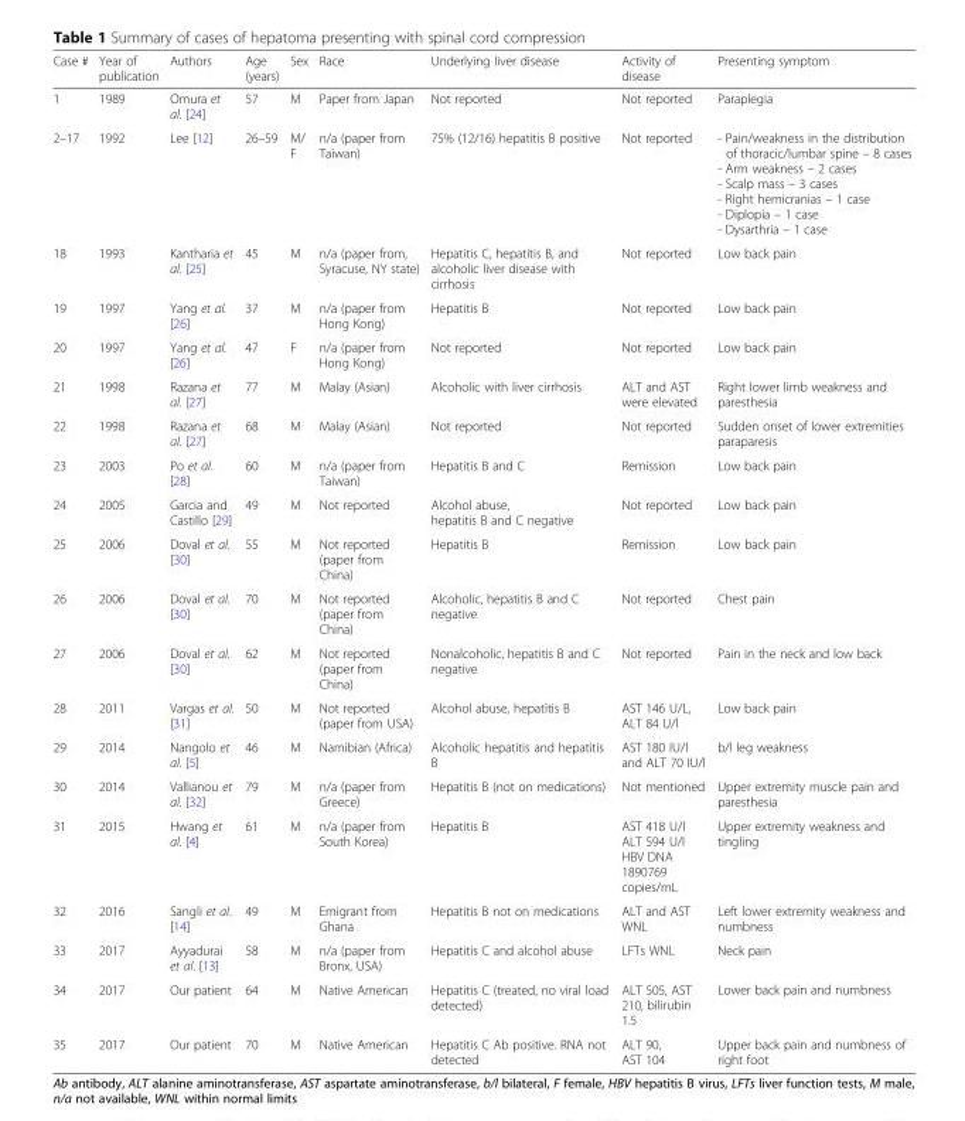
<table><thead><tr><td>Case #</td><td>Year of publication</td><td>Authors</td><td>Age (years)</td><td>Sex</td><td>Race</td><td>Underlying liver disease</td><td>Activity of disease</td><td>Presenting symptom</td></tr></thead><tbody><tr><td>1</td><td>1989</td><td>Omura et al. [24]</td><td>57</td><td>M</td><td>Paper from Japan</td><td>Not reported</td><td>Not reported</td><td>Paraplegia</td></tr><tr><td>2–17</td><td>1992</td><td>Lee [12]</td><td>26–59</td><td>M/ F</td><td>n/a (paper from Taiwan)</td><td>75% (12/16) hepatitis B positive</td><td>Not reported</td><td>- Pain/weakness in the distribution of thoracic/lumbar spine – 8 cases - Arm weakness – 2 cases - Scalp mass – 3 cases - Right hemicranias – 1 case - Diplopia – 1 case - Dysarthria – 1 case</td></tr><tr><td>18</td><td>1993</td><td>Kantharia et al. [25]</td><td>45</td><td>M</td><td>n/a (paper from, Syracuse, NY state)</td><td>Hepatitis C, hepatitis B, and alcoholic liver disease with cirrhosis</td><td>Not reported</td><td>Low back pain</td></tr><tr><td>19</td><td>1997</td><td>Yang et al. [26]</td><td>37</td><td>M</td><td>n/a (paper from Hong Kong)</td><td>Hepatitis B</td><td>Not reported</td><td>Low back pain</td></tr><tr><td>20</td><td>1997</td><td>Yang et al. [26]</td><td>47</td><td>F</td><td>n/a (paper from Hong Kong)</td><td>Not reported</td><td>Not reported</td><td>Low back pain</td></tr><tr><td>21</td><td>1998</td><td>Razana et al. [27]</td><td>77</td><td>M</td><td>Malay (Asian)</td><td>Alcoholic with liver cirrhosis</td><td>ALT and AST were elevated</td><td>Right lower limb weakness and paresthesia</td></tr><tr><td>22</td><td>1998</td><td>Razana et al. [27]</td><td>68</td><td>M</td><td>Malay (Asian)</td><td>Not reported</td><td>Not reported</td><td>Sudden onset of lower extremities paraparesis</td></tr><tr><td>23</td><td>2003</td><td>Po et al. [28]</td><td>60</td><td>M</td><td>n/a (paper from Taiwan)</td><td>Hepatitis B and C</td><td>Remission</td><td>Low back pain</td></tr><tr><td>24</td><td>2005</td><td>Garcia and Castillo [29]</td><td>49</td><td>M</td><td>Not reported</td><td>Alcohol abuse, hepatitis B and C negative</td><td>Not reported</td><td>Low back pain</td></tr><tr><td>25</td><td>2006</td><td>Doval et al. [30]</td><td>55</td><td>M</td><td>Not reported (paper from China)</td><td>Hepatitis B</td><td>Remission</td><td>Low back pain</td></tr><tr><td>26</td><td>2006</td><td>Doval et al. [30]</td><td>70</td><td>M</td><td>Not reported (paper from China)</td><td>Alcoholic, hepatitis B and C negative</td><td>Not reported</td><td>Chest pain</td></tr><tr><td>27</td><td>2006</td><td>Doval et al. [30]</td><td>62</td><td>M</td><td>Not reported (paper from China)</td><td>Nonalcoholic, hepatitis B and C negative</td><td>Not reported</td><td>Pain in the neck and low back</td></tr><tr><td>28</td><td>2011</td><td>Vargas et al. [31]</td><td>50</td><td>M</td><td>Not reported (paper from USA)</td><td>Alcohol abuse, hepatitis B</td><td>AST 146 U/L, ALT 84 U/l</td><td>Low back pain</td></tr><tr><td>29</td><td>2014</td><td>Nangolo et al. [5]</td><td>46</td><td>M</td><td>Namibian (Africa)</td><td>Alcoholic hepatitis and hepatitis B</td><td>AST 180 IU/l and ALT 70 IU/l</td><td>b/l leg weakness</td></tr><tr><td>30</td><td>2014</td><td>Vallianou et al. [32]</td><td>79</td><td>M</td><td>n/a (paper from Greece)</td><td>Hepatitis B (not on medications)</td><td>Not mentioned</td><td>Upper extremity muscle pain and paresthesia</td></tr><tr><td>31</td><td>2015</td><td>Hwang et al. [4]</td><td>61</td><td>M</td><td>n/a (paper from South Korea)</td><td>Hepatitis B</td><td>AST 418 U/l ALT 594 U/l HBV DNA 1890769 copies/mL</td><td>Upper extremity weakness and tingling</td></tr><tr><td>32</td><td>2016</td><td>Sangli et al. [14]</td><td>49</td><td>M</td><td>Emigrant from Ghana</td><td>Hepatitis B not on medications</td><td>ALT and AST WNL</td><td>Left lower extremity weakness and numbness</td></tr><tr><td>33</td><td>2017</td><td>Ayyadurai et al. [13]</td><td>58</td><td>M</td><td>n/a (paper from Bronx, USA)</td><td>Hepatitis C and alcohol abuse</td><td>LFTs WNL</td><td>Neck pain</td></tr><tr><td>34</td><td>2017</td><td>Our patient</td><td>64</td><td>M</td><td>Native American</td><td>Hepatitis C (treated, no viral load detected)</td><td>ALT 505, AST 210, bilirubin 1.5</td><td>Lower back pain and numbness</td></tr><tr><td>35</td><td>2017</td><td>Our patient</td><td>70</td><td>M</td><td>Native American</td><td>Hepatitis C Ab positive. RNA not detected</td><td>ALT 90, AST 104</td><td>Upper back pain and numbness of right foot</td></tr></tbody></table>